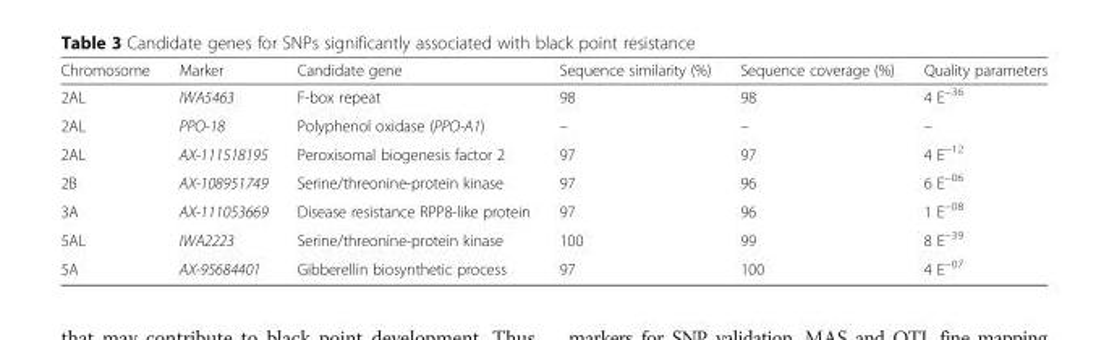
<table><thead><tr><td>Chromosome</td><td>Marker</td><td>Candidate gene</td><td>Sequence similarity (%)</td><td>Sequence coverage (%)</td><td>Quality parameters</td></tr></thead><tbody><tr><td>2AL</td><td>IWA5463</td><td>F-box repeat</td><td>98</td><td>98</td><td>4 E<sup>−36</sup></td></tr><tr><td>2AL</td><td>PPO-18</td><td>Polyphenol oxidase (PPO-A1)</td><td>–</td><td>–</td><td>–</td></tr><tr><td>2AL</td><td>AX-111518195</td><td>Peroxisomal biogenesis factor 2</td><td>97</td><td>97</td><td>4 E<sup>−12</sup></td></tr><tr><td>2B</td><td>AX-108951749</td><td>Serine/threonine-protein kinase</td><td>97</td><td>96</td><td>6 E<sup>−06</sup></td></tr><tr><td>3A</td><td>AX-111053669</td><td>Disease resistance RPP8-like protein</td><td>97</td><td>96</td><td>1 E<sup>−08</sup></td></tr><tr><td>5AL</td><td>IWA2223</td><td>Serine/threonine-protein kinase</td><td>100</td><td>99</td><td>8 E<sup>−39</sup></td></tr><tr><td>5A</td><td>AX-95684401</td><td>Gibberellin biosynthetic process</td><td>97</td><td>100</td><td>4 E<sup>−07</sup></td></tr></tbody></table>